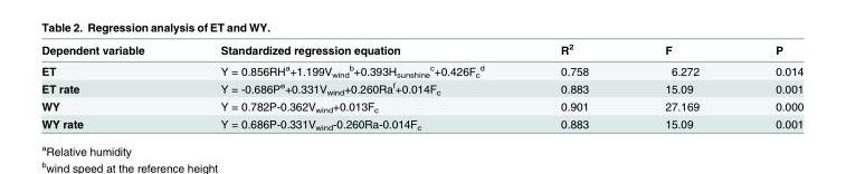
<table><thead><tr><td>Dependent variable</td><td>Standardized regression equation</td><td>R<sup>2</sup></td><td>F</td><td>P</td></tr></thead><tbody><tr><td>ET</td><td>Y = 0.856RH<sup>a</sup>+1.199V<sub>wind</sub> <sup>b</sup>+0.393H<sub>sunshine</sub> <sup>c</sup>+0.426F<sub>c</sub> <sup>d</sup></td><td>0.758</td><td>6.272</td><td>0.014</td></tr><tr><td>ET rate</td><td>Y = -0.686P<sup>e</sup>+0.331V<sub>wind</sub>+0.260Ra<sup>f</sup>+0.014F<sub>c</sub></td><td>0.883</td><td>15.09</td><td>0.001</td></tr><tr><td>WY</td><td>Y = 0.782P-0.362V<sub>wind</sub>+0.013F<sub>c</sub></td><td>0.901</td><td>27.169</td><td>0.000</td></tr><tr><td>WY rate</td><td>Y = 0.686P-0.331V<sub>wind</sub>-0.260Ra-0.014F<sub>c</sub></td><td>0.883</td><td>15.09</td><td>0.001</td></tr></tbody></table>